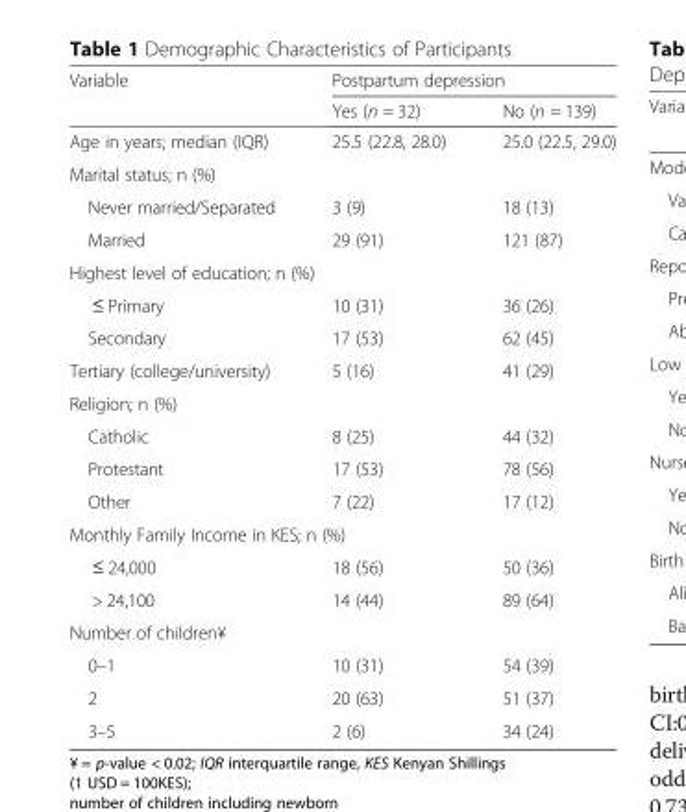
<table><thead><tr><td rowspan="2">Variable</td><td colspan="2">Postpartum depression</td></tr><tr><td>Yes (n = 32)</td><td>No (n = 139)</td></tr></thead><tbody><tr><td>Age in years; median (IQR)</td><td>25.5 (22.8, 28.0)</td><td>25.0 (22.5, 29.0)</td></tr><tr><td colspan="3">Marital status; n (%)</td></tr><tr><td>Never married/Separated</td><td>3 (9)</td><td>18 (13)</td></tr><tr><td>Married</td><td>29 (91)</td><td>121 (87)</td></tr><tr><td colspan="3">Highest level of education; n (%)</td></tr><tr><td>≤ Primary</td><td>10 (31)</td><td>36 (26)</td></tr><tr><td>Secondary</td><td>17 (53)</td><td>62 (45)</td></tr><tr><td>Tertiary (college/university)</td><td>5 (16)</td><td>41 (29)</td></tr><tr><td colspan="3">Religion; n (%)</td></tr><tr><td>Catholic</td><td>8 (25)</td><td>44 (32)</td></tr><tr><td>Protestant</td><td>17 (53)</td><td>78 (56)</td></tr><tr><td>Other</td><td>7 (22)</td><td>17 (12)</td></tr><tr><td colspan="3">Monthly Family Income in KES; n (%)</td></tr><tr><td>≤ 24,000</td><td>18 (56)</td><td>50 (36)</td></tr><tr><td>&gt; 24,100</td><td>14 (44)</td><td>89 (64)</td></tr><tr><td colspan="3">Number of children¥</td></tr><tr><td>0–1</td><td>10 (31)</td><td>54 (39)</td></tr><tr><td>2</td><td>20 (63)</td><td>51 (37)</td></tr><tr><td>3–5</td><td>2 (6)</td><td>34 (24)</td></tr></tbody></table>